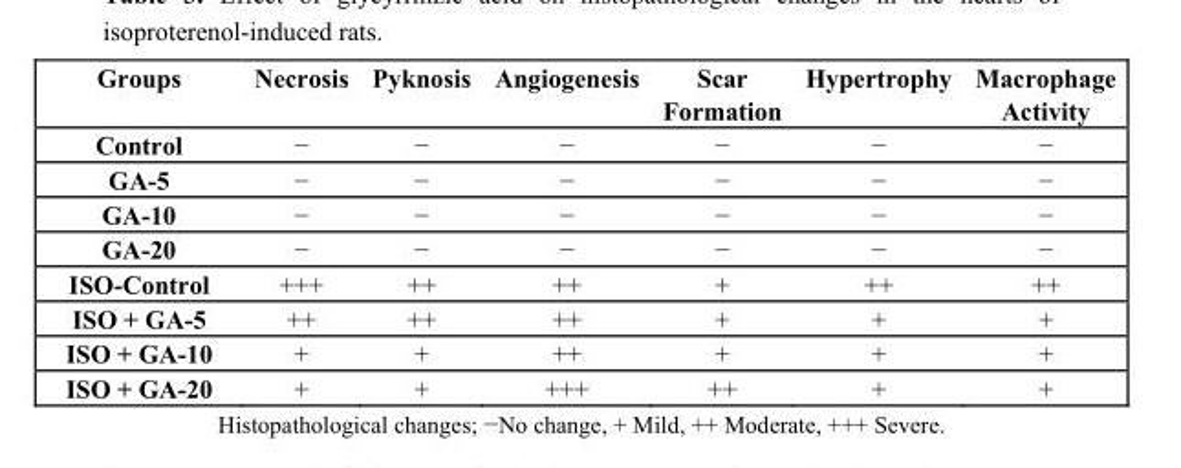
<table><thead><tr><td>Groups</td><td>Necrosis</td><td>Pyknosis</td><td>Angiogenesis</td><td>Scar Formation</td><td>Hypertrophy</td><td>Macrophage Activity</td></tr></thead><tbody><tr><td>Control</td><td>−</td><td>−</td><td>−</td><td>−</td><td>−</td><td>−</td></tr><tr><td>GA-5</td><td>−</td><td>−</td><td>−</td><td>−</td><td>−</td><td>−</td></tr><tr><td>GA-10</td><td>−</td><td>−</td><td>−</td><td>−</td><td>−</td><td>−</td></tr><tr><td>GA-20</td><td>−</td><td>−</td><td>−</td><td>−</td><td>−</td><td>−</td></tr><tr><td>ISO-Control</td><td>+++</td><td>++</td><td>++</td><td>+</td><td>++</td><td>++</td></tr><tr><td>ISO + GA-5</td><td>++</td><td>++</td><td>++</td><td>+</td><td>+</td><td>+</td></tr><tr><td>ISO + GA-10</td><td>+</td><td>+</td><td>++</td><td>+</td><td>+</td><td>+</td></tr><tr><td>ISO + GA-20</td><td>+</td><td>+</td><td>+++</td><td>++</td><td>+</td><td>+</td></tr></tbody></table>